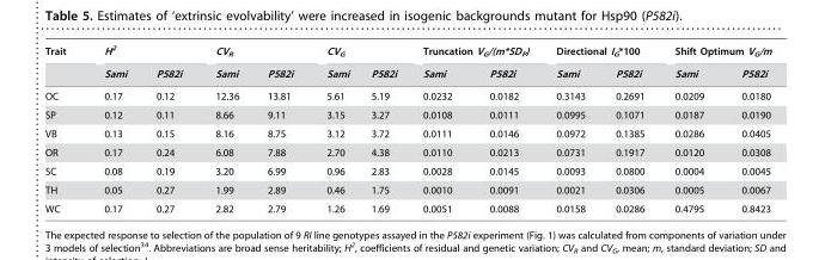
<table><thead><tr><td rowspan="2">Trait</td><td colspan="2">H<sup>2</sup></td><td colspan="2">CV<sub>R</sub></td><td colspan="2">CV<sub>G</sub></td><td colspan="2">Truncation V<sub>G</sub>/(m*SD<sub>P</sub>)</td><td colspan="2">Directional I<sub>G</sub>*100</td><td colspan="2">Shift Optimum V<sub>G</sub>/m</td></tr><tr><td>Sami</td><td>P582i</td><td>Sami</td><td>P582i</td><td>Sami</td><td>P582i</td><td>Sami</td><td>P582i</td><td>Sami</td><td>P582i</td><td>Sami</td><td>P582i</td></tr></thead><tbody><tr><td>OC</td><td>0.17</td><td>0.12</td><td>12.36</td><td>13.81</td><td>5.61</td><td>5.19</td><td>0.0232</td><td>0.0182</td><td>0.3143</td><td>0.2691</td><td>0.0209</td><td>0.0180</td></tr><tr><td>SP</td><td>0.12</td><td>0.11</td><td>8.66</td><td>9.11</td><td>3.15</td><td>3.27</td><td>0.0108</td><td>0.0111</td><td>0.0995</td><td>0.1071</td><td>0.0187</td><td>0.0190</td></tr><tr><td>VB</td><td>0.13</td><td>0.15</td><td>8.16</td><td>8.75</td><td>3.12</td><td>3.72</td><td>0.0111</td><td>0.0146</td><td>0.0972</td><td>0.1385</td><td>0.0286</td><td>0.0405</td></tr><tr><td>OR</td><td>0.17</td><td>0.24</td><td>6.08</td><td>7.88</td><td>2.70</td><td>4.38</td><td>0.0110</td><td>0.0213</td><td>0.0731</td><td>0.1917</td><td>0.0120</td><td>0.0308</td></tr><tr><td>SC</td><td>0.08</td><td>0.19</td><td>3.20</td><td>6.99</td><td>0.96</td><td>2.83</td><td>0.0028</td><td>0.0145</td><td>0.0093</td><td>0.0800</td><td>0.0004</td><td>0.0045</td></tr><tr><td>TH</td><td>0.05</td><td>0.27</td><td>1.99</td><td>2.89</td><td>0.46</td><td>1.75</td><td>0.0010</td><td>0.0091</td><td>0.0021</td><td>0.0306</td><td>0.0005</td><td>0.0067</td></tr><tr><td>WC</td><td>0.17</td><td>0.27</td><td>2.82</td><td>2.79</td><td>1.26</td><td>1.69</td><td>0.0051</td><td>0.0088</td><td>0.0158</td><td>0.0286</td><td>0.4795</td><td>0.8423</td></tr></tbody></table>